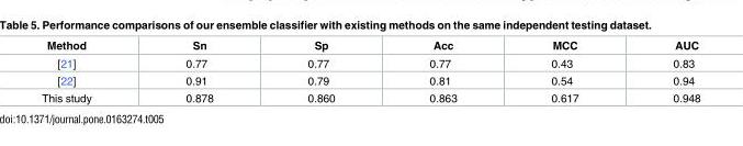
<table><thead><tr><td>Method</td><td>Sn</td><td>Sp</td><td>Acc</td><td>MCC</td><td>AUC</td></tr></thead><tbody><tr><td>[21]</td><td>0.77</td><td>0.77</td><td>0.77</td><td>0.43</td><td>0.83</td></tr><tr><td>[22]</td><td>0.91</td><td>0.79</td><td>0.81</td><td>0.54</td><td>0.94</td></tr><tr><td>This study</td><td>0.878</td><td>0.860</td><td>0.863</td><td>0.617</td><td>0.948</td></tr></tbody></table>